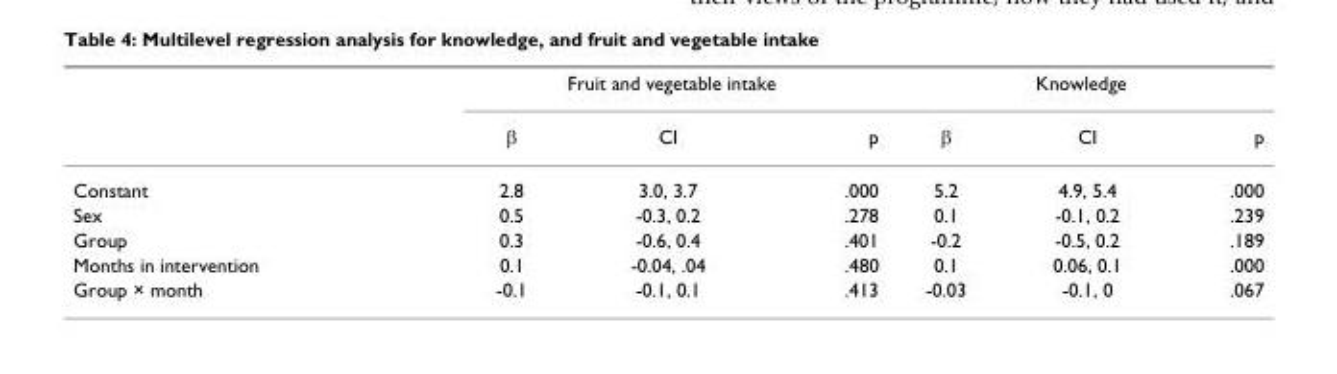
<table><thead><tr><td rowspan="2"></td><td colspan="3">Fruit and vegetable intake</td><td colspan="3">Knowledge</td></tr><tr><td>β</td><td>CI</td><td>p</td><td>β</td><td>CI</td><td>p</td></tr></thead><tbody><tr><td>Constant</td><td>2.8</td><td>3.0, 3.7</td><td>.000</td><td>5.2</td><td>4.9, 5.4</td><td>.000</td></tr><tr><td>Sex</td><td>0.5</td><td>-0.3, 0.2</td><td>.278</td><td>0.1</td><td>-0.1, 0.2</td><td>.239</td></tr><tr><td>Group</td><td>0.3</td><td>-0.6, 0.4</td><td>.401</td><td>-0.2</td><td>-0.5, 0.2</td><td>.189</td></tr><tr><td>Months in intervention</td><td>0.1</td><td>-0.04, .04</td><td>.480</td><td>0.1</td><td>0.06, 0.1</td><td>.000</td></tr><tr><td>Group × month</td><td>-0.1</td><td>-0.1, 0.1</td><td>.413</td><td>-0.03</td><td>-0.1, 0</td><td>.067</td></tr></tbody></table>